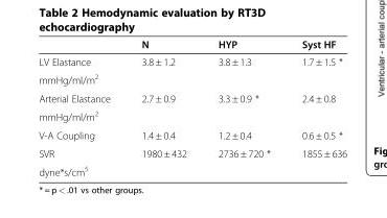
<table><thead><tr><td></td><td>N</td><td>HYP</td><td>Syst HF</td></tr></thead><tbody><tr><td>LV Elastance</td><td>3.8 ± 1.2</td><td>3.8 ± 1.3</td><td>1.7 ± 1.5 *</td></tr><tr><td colspan="4">mmHg/ml/m<sup>2</sup></td></tr><tr><td>Arterial Elastance</td><td>2.7 ± 0.9</td><td>3.3 ± 0.9 *</td><td>2.4 ± 0.8</td></tr><tr><td colspan="4">mmHg/ml/m<sup>2</sup></td></tr><tr><td>V-A Coupling</td><td>1.4 ± 0.4</td><td>1.2 ± 0.4</td><td>0.6 ± 0.5 *</td></tr><tr><td>SVR</td><td>1980 ± 432</td><td>2736 ± 720 *</td><td>1855 ± 636</td></tr><tr><td>dyne*s/cm<sup>5</sup></td><td></td><td></td><td></td></tr></tbody></table>